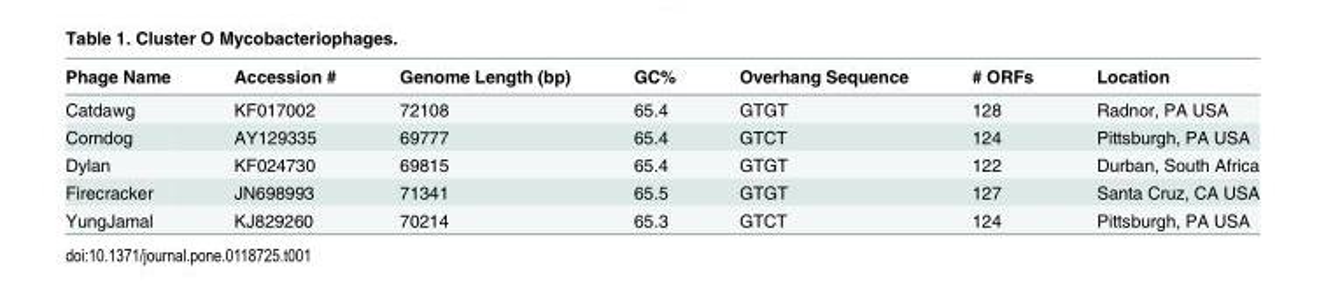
<table><thead><tr><td>Phage Name</td><td>Accession #</td><td>Genome Length (bp)</td><td>GC%</td><td>Overhang Sequence</td><td># ORFs</td><td>Location</td></tr></thead><tbody><tr><td>Catdawg</td><td>KF017002</td><td>72108</td><td>65.4</td><td>GTGT</td><td>128</td><td>Radnor, PA USA</td></tr><tr><td>Corndog</td><td>AY129335</td><td>69777</td><td>65.4</td><td>GTCT</td><td>124</td><td>Pittsburgh, PA USA</td></tr><tr><td>Dylan</td><td>KF024730</td><td>69815</td><td>65.4</td><td>GTGT</td><td>122</td><td>Durban, South Africa</td></tr><tr><td>Firecracker</td><td>JN698993</td><td>71341</td><td>65.5</td><td>GTGT</td><td>127</td><td>Santa Cruz, CA USA</td></tr><tr><td>YungJamal</td><td>KJ829260</td><td>70214</td><td>65.3</td><td>GTCT</td><td>124</td><td>Pittsburgh, PA USA</td></tr></tbody></table>